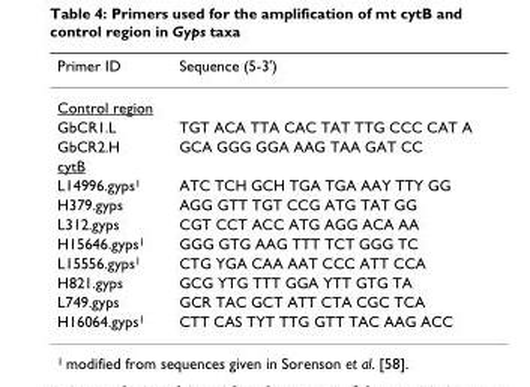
<table><thead><tr><td>Primer ID</td><td>Sequence (5-3&#x27;)</td></tr></thead><tbody><tr><td colspan="2">Control region</td></tr><tr><td>GbCR1.L</td><td>TGT ACA TTA CAC TAT TTG CCC CAT A</td></tr><tr><td>GbCR2.H</td><td>GCA GGG GGA AAG TAA GAT CC</td></tr><tr><td colspan="2">cytB</td></tr><tr><td>L14996.gyps<sup>1</sup></td><td>ATC TCH GCH TGA TGA AAY TTY GG</td></tr><tr><td>H379.gyps</td><td>AGG GTT TGT CCG ATG TAT GG</td></tr><tr><td>L312.gyps</td><td>CGT CCT ACC ATG AGG ACA AA</td></tr><tr><td>H15646.gyps<sup>1</sup></td><td>GGG GTG AAG TTT TCT GGG TC</td></tr><tr><td>L15556.gyps<sup>1</sup></td><td>CTG YGA CAA AAT CCC ATT CCA</td></tr><tr><td>H821.gyps</td><td>GCG YTG TTT GGA YTT GTG TA</td></tr><tr><td>L749.gyps</td><td>GCR TAC GCT ATT CTA CGC TCA</td></tr><tr><td>H16064.gyps<sup>1</sup></td><td>CTT CAS TYT TTG GTT TAC AAG ACC</td></tr></tbody></table>